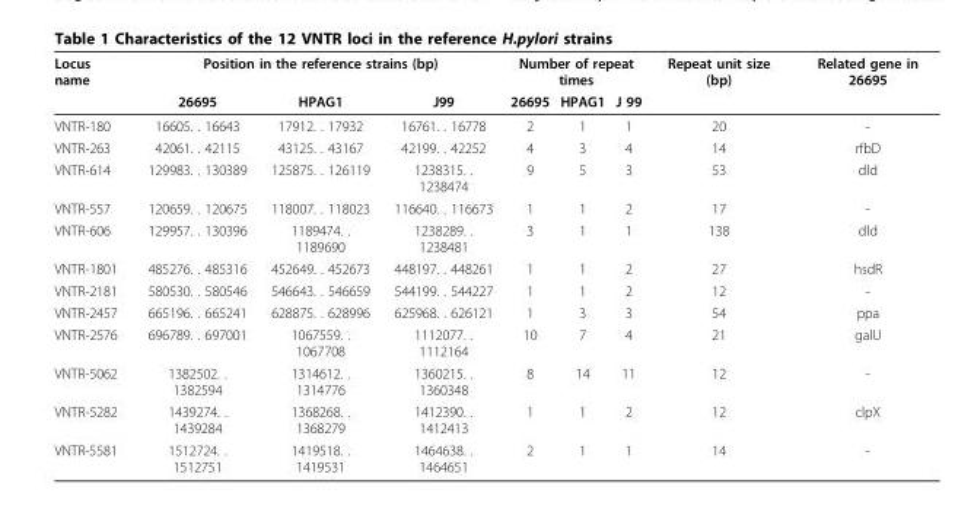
<table><thead><tr><td rowspan="2">Locus name</td><td colspan="3">Position in the reference strains (bp)</td><td colspan="3">Number of repeat times</td><td rowspan="2">Repeat unit size (bp)</td><td rowspan="2">Related gene in 26695</td></tr><tr><td>26695</td><td>HPAG1</td><td>J99</td><td>26695</td><td>HPAG1</td><td>J 99</td></tr></thead><tbody><tr><td>VNTR-180</td><td>16605. . 16643</td><td>17912. . 17932</td><td>16761. . 16778</td><td>2</td><td>1</td><td>1</td><td>20</td><td>-</td></tr><tr><td>VNTR-263</td><td>42061. . 42115</td><td>43125. . 43167</td><td>42199. . 42252</td><td>4</td><td>3</td><td>4</td><td>14</td><td>rfbD</td></tr><tr><td>VNTR-614</td><td>129983. . 130389</td><td>125875. . 126119</td><td>1238315. . 1238474</td><td>9</td><td>5</td><td>3</td><td>53</td><td>dld</td></tr><tr><td>VNTR-557</td><td>120659. . 120675</td><td>118007. . 118023</td><td>116640. . 116673</td><td>1</td><td>1</td><td>2</td><td>17</td><td>-</td></tr><tr><td>VNTR-606</td><td>129957. . 130396</td><td>1189474. . 1189690</td><td>1238289. . 1238481</td><td>3</td><td>1</td><td>1</td><td>138</td><td>dld</td></tr><tr><td>VNTR-1801</td><td>485276. . 485316</td><td>452649. . 452673</td><td>448197. . 448261</td><td>1</td><td>1</td><td>2</td><td>27</td><td>hsdR</td></tr><tr><td>VNTR-2181</td><td>580530. . 580546</td><td>546643. . 546659</td><td>544199. . 544227</td><td>1</td><td>1</td><td>2</td><td>12</td><td>-</td></tr><tr><td>VNTR-2457</td><td>665196. . 665241</td><td>628875. . 628996</td><td>625968. . 626121</td><td>1</td><td>3</td><td>3</td><td>54</td><td>ppa</td></tr><tr><td>VNTR-2576</td><td>696789. . 697001</td><td>1067559. . 1067708</td><td>1112077. . 1112164</td><td>10</td><td>7</td><td>4</td><td>21</td><td>galU</td></tr><tr><td>VNTR-5062</td><td>1382502. . 1382594</td><td>1314612. . 1314776</td><td>1360215. . 1360348</td><td>8</td><td>14</td><td>11</td><td>12</td><td>-</td></tr><tr><td>VNTR-5282</td><td>1439274. . 1439284</td><td>1368268. . 1368279</td><td>1412390. . 1412413</td><td>1</td><td>1</td><td>2</td><td>12</td><td>clpX</td></tr><tr><td>VNTR-5581</td><td>1512724. . 1512751</td><td>1419518. . 1419531</td><td>1464638. . 1464651</td><td>2</td><td>1</td><td>1</td><td>14</td><td>-</td></tr></tbody></table>